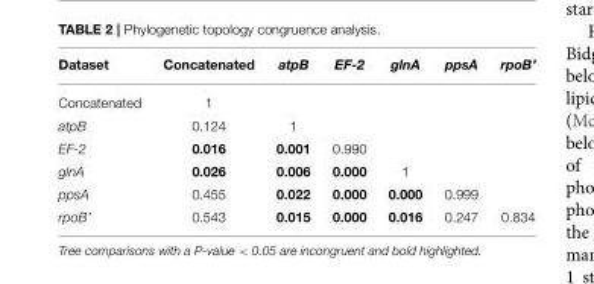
<table><thead><tr><td>Dataset</td><td>Concatenated</td><td>atpB</td><td>EF-2</td><td>glnA</td><td>ppsA</td><td>rpoB’</td></tr></thead><tbody><tr><td>Concatenated</td><td>1</td><td></td><td></td><td></td><td></td><td></td></tr><tr><td>atpB</td><td>0.124</td><td>1</td><td></td><td></td><td></td><td></td></tr><tr><td>EF-2</td><td>0.016</td><td>0.001</td><td>0.990</td><td></td><td></td><td></td></tr><tr><td>glnA</td><td>0.026</td><td>0.006</td><td>0.000</td><td>1</td><td></td><td></td></tr><tr><td>ppsA</td><td>0.455</td><td>0.022</td><td>0.000</td><td>0.000</td><td>0.999</td><td></td></tr><tr><td>rpoB’</td><td>0.543</td><td>0.015</td><td>0.000</td><td>0.016</td><td>0.247</td><td>0.834</td></tr></tbody></table>